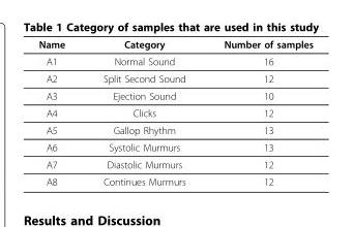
<table><thead><tr><td>Name</td><td>Category</td><td>Number of samples</td></tr></thead><tbody><tr><td>A1</td><td>Normal Sound</td><td>16</td></tr><tr><td>A2</td><td>Split Second Sound</td><td>12</td></tr><tr><td>A3</td><td>Ejection Sound</td><td>10</td></tr><tr><td>A4</td><td>Clicks</td><td>12</td></tr><tr><td>A5</td><td>Gallop Rhythm</td><td>13</td></tr><tr><td>A6</td><td>Systolic Murmurs</td><td>13</td></tr><tr><td>A7</td><td>Diastolic Murmurs</td><td>12</td></tr><tr><td>A8</td><td>Continues Murmurs</td><td>12</td></tr></tbody></table>